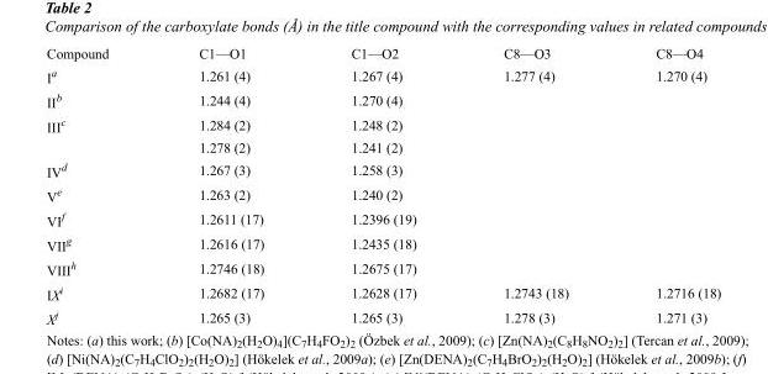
<table><thead><tr><td>Compound</td><td>C1—O1</td><td>C1—O2</td><td>C8—O3</td><td>C8—O4</td></tr></thead><tbody><tr><td>I<sup>a</sup></td><td>1.261 (4)</td><td>1.267 (4)</td><td>1.277 (4)</td><td>1.270 (4)</td></tr><tr><td>II<sup>b</sup></td><td>1.244 (4)</td><td>1.270 (4)</td><td></td><td></td></tr><tr><td rowspan="2">III<sup>c</sup></td><td>1.284 (2)</td><td>1.248 (2)</td><td></td><td></td></tr><tr><td>1.278 (2)</td><td>1.241 (2)</td><td></td><td></td></tr><tr><td>IV<sup>d</sup></td><td>1.267 (3)</td><td>1.258 (3)</td><td></td><td></td></tr><tr><td>V<sup>e</sup></td><td>1.263 (2)</td><td>1.240 (2)</td><td></td><td></td></tr><tr><td>VI<sup>f</sup></td><td>1.2611 (17)</td><td>1.2396 (19)</td><td></td><td></td></tr><tr><td>VII<sup>g</sup></td><td>1.2616 (17)</td><td>1.2435 (18)</td><td></td><td></td></tr><tr><td>VIII<sup>h</sup></td><td>1.2746 (18)</td><td>1.2675 (17)</td><td></td><td></td></tr><tr><td>IX<sup>i</sup></td><td>1.2682 (17)</td><td>1.2628 (17)</td><td>1.2743 (18)</td><td>1.2716 (18)</td></tr><tr><td>X<sup>j</sup></td><td>1.265 (3)</td><td>1.265 (3)</td><td>1.278 (3)</td><td>1.271 (3)</td></tr></tbody></table>